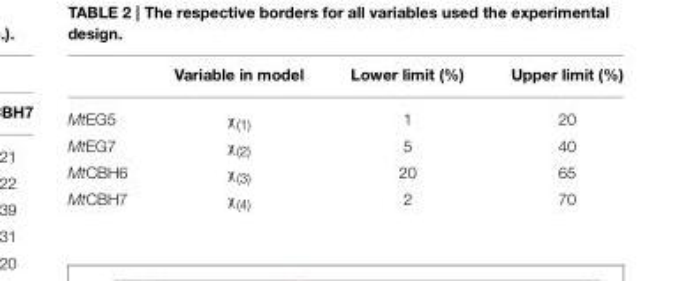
<table><thead><tr><td></td><td>Variable in model</td><td>Lower limit (%)</td><td>Upper limit (%)</td></tr></thead><tbody><tr><td>MtEG5</td><td>χ<sub>(1)</sub></td><td>1</td><td>20</td></tr><tr><td>MtEG7</td><td>χ<sub>(2)</sub></td><td>5</td><td>40</td></tr><tr><td>MtCBH6</td><td>χ<sub>(3)</sub></td><td>20</td><td>65</td></tr><tr><td>MtCBH7</td><td>χ<sub>(4)</sub></td><td>2</td><td>70</td></tr></tbody></table>